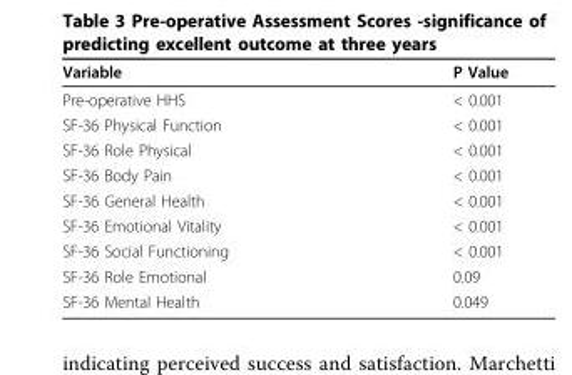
<table><thead><tr><td>Variable</td><td>P Value</td></tr></thead><tbody><tr><td>Pre-operative HHS</td><td>&lt; 0.001</td></tr><tr><td>SF-36 Physical Function</td><td>&lt; 0.001</td></tr><tr><td>SF-36 Role Physical</td><td>&lt; 0.001</td></tr><tr><td>SF-36 Body Pain</td><td>&lt; 0.001</td></tr><tr><td>SF-36 General Health</td><td>&lt; 0.001</td></tr><tr><td>SF-36 Emotional Vitality</td><td>&lt; 0.001</td></tr><tr><td>SF-36 Social Functioning</td><td>&lt; 0.001</td></tr><tr><td>SF-36 Role Emotional</td><td>0.09</td></tr><tr><td>SF-36 Mental Health</td><td>0.049</td></tr></tbody></table>